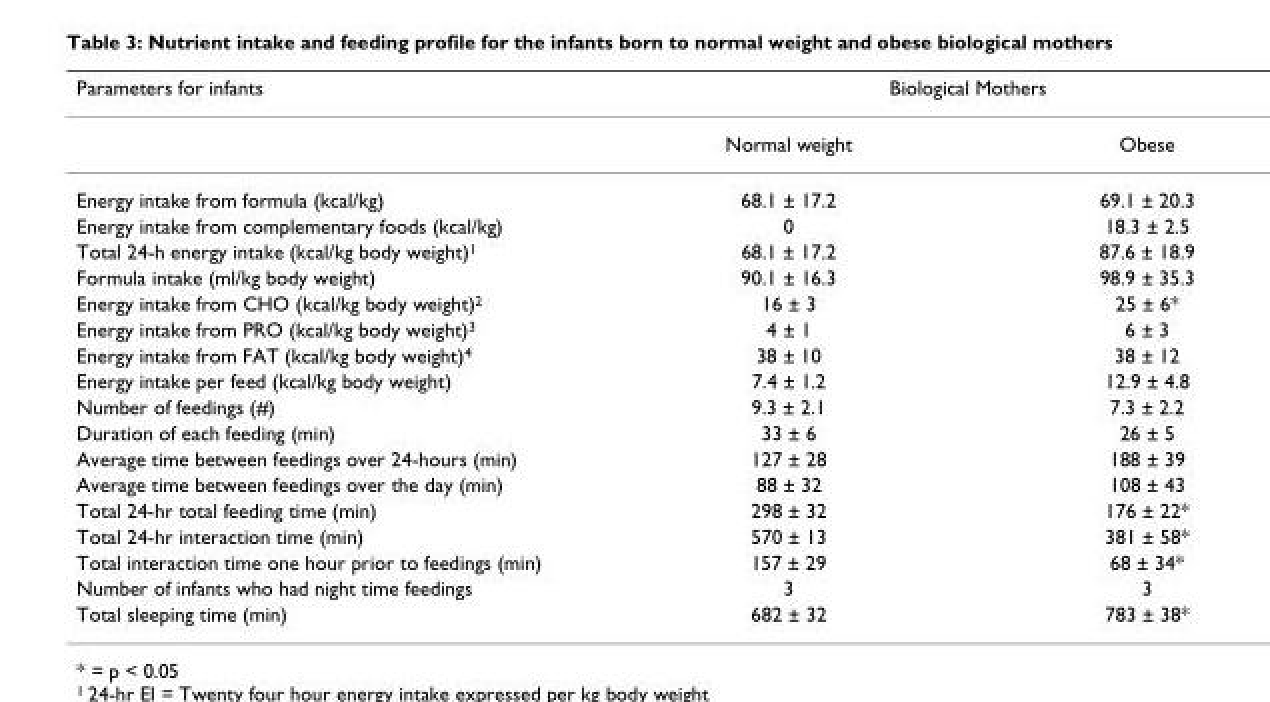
<table><thead><tr><td rowspan="2">Parameters for infants</td><td colspan="2">Biological Mothers</td></tr><tr><td>Normal weight</td><td>Obese</td></tr></thead><tbody><tr><td>Energy intake from formula (kcal/kg)</td><td>68.1 ± 17.2</td><td>69.1 ± 20.3</td></tr><tr><td>Energy intake from complementary foods (kcal/kg)</td><td>0</td><td>18.3 ± 2.5</td></tr><tr><td>Total 24-h energy intake (kcal/kg body weight)<sup>1</sup></td><td>68.1 ± 17.2</td><td>87.6 ± 18.9</td></tr><tr><td>Formula intake (ml/kg body weight)</td><td>90.1 ± 16.3</td><td>98.9 ± 35.3</td></tr><tr><td>Energy intake from CHO (kcal/kg body weight)<sup>2</sup></td><td>16 ± 3</td><td>25 ± 6*</td></tr><tr><td>Energy intake from PRO (kcal/kg body weight)<sup>3</sup></td><td>4 ± 1</td><td>6 ± 3</td></tr><tr><td>Energy intake from FAT (kcal/kg body weight)<sup>4</sup></td><td>38 ± 10</td><td>38 ± 12</td></tr><tr><td>Energy intake per feed (kcal/kg body weight)</td><td>7.4 ± 1.2</td><td>12.9 ± 4.8</td></tr><tr><td>Number of feedings (#)</td><td>9.3 ± 2.1</td><td>7.3 ± 2.2</td></tr><tr><td>Duration of each feeding (min)</td><td>33 ± 6</td><td>26 ± 5</td></tr><tr><td>Average time between feedings over 24-hours (min)</td><td>127 ± 28</td><td>188 ± 39</td></tr><tr><td>Average time between feedings over the day (min)</td><td>88 ± 32</td><td>108 ± 43</td></tr><tr><td>Total 24-hr total feeding time (min)</td><td>298 ± 32</td><td>176 ± 22*</td></tr><tr><td>Total 24-hr interaction time (min)</td><td>570 ± 13</td><td>381 ± 58*</td></tr><tr><td>Total interaction time one hour prior to feedings (min)</td><td>157 ± 29</td><td>68 ± 34*</td></tr><tr><td>Number of infants who had night time feedings</td><td>3</td><td>3</td></tr><tr><td>Total sleeping time (min)</td><td>682 ± 32</td><td>783 ± 38*</td></tr></tbody></table>